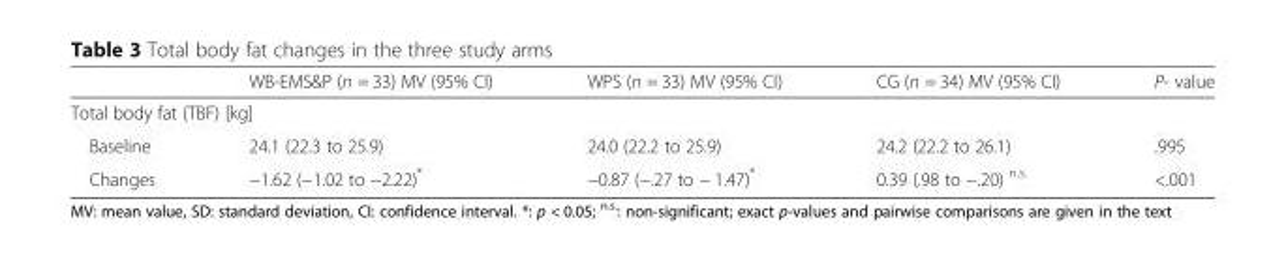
<table><thead><tr><td></td><td>WB-EMS&amp;P (n = 33) MV (95% CI)</td><td>WPS (n = 33) MV (95% CI)</td><td>CG (n = 34) MV (95% CI)</td><td>P- value</td></tr></thead><tbody><tr><td colspan="5">Total body fat (TBF) [kg]</td></tr><tr><td>Baseline</td><td>24.1 (22.3 to 25.9)</td><td>24.0 (22.2 to 25.9)</td><td>24.2 (22.2 to 26.1)</td><td>.995</td></tr><tr><td>Changes</td><td>−1.62 (−1.02 to −2.22)*</td><td>−0.87 (−.27 to − 1.47)*</td><td>0.39 (.98 to −.20) <sup>n.s.</sup></td><td>&lt;.001</td></tr></tbody></table>